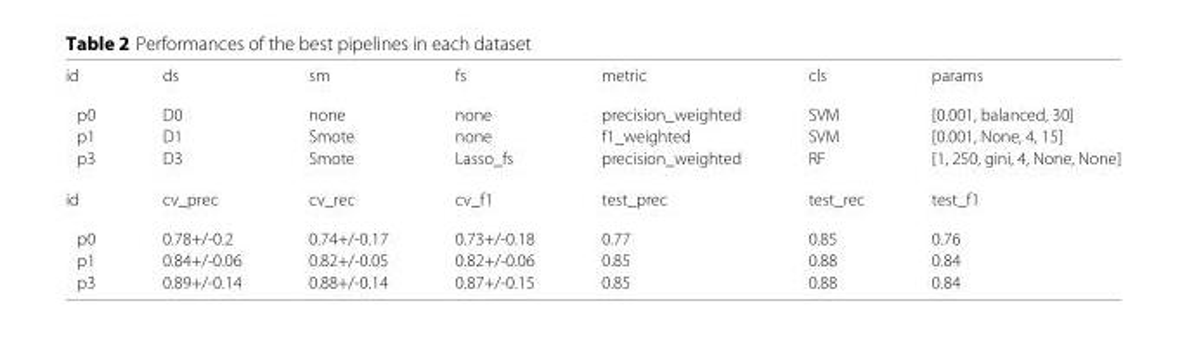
<table><tbody><tr><td>id</td><td>ds</td><td>sm</td><td>fs</td><td>metric</td><td>cls</td><td>params</td></tr><tr><td>p0</td><td>D0</td><td>none</td><td>none</td><td>precision_weighted</td><td>SVM</td><td>[0.001, balanced, 30]</td></tr><tr><td>p1</td><td>D1</td><td>Smote</td><td>none</td><td>f1_weighted</td><td>SVM</td><td>[0.001, None, 4, 15]</td></tr><tr><td>p3</td><td>D3</td><td>Smote</td><td>Lasso_fs</td><td>precision_weighted</td><td>RF</td><td>[1, 250, gini, 4, None, None]</td></tr><tr><td>id</td><td>cv_prec</td><td>cv_rec</td><td>cv_f1</td><td>test_prec</td><td>test_rec</td><td>test_f1</td></tr><tr><td>p0</td><td>0.78+/-0.2</td><td>0.74+/-0.17</td><td>0.73+/-0.18</td><td>0.77</td><td>0.85</td><td>0.76</td></tr><tr><td>p1</td><td>0.84+/-0.06</td><td>0.82+/-0.05</td><td>0.82+/-0.06</td><td>0.85</td><td>0.88</td><td>0.84</td></tr><tr><td>p3</td><td>0.89+/-0.14</td><td>0.88+/-0.14</td><td>0.87+/-0.15</td><td>0.85</td><td>0.88</td><td>0.84</td></tr></tbody></table>